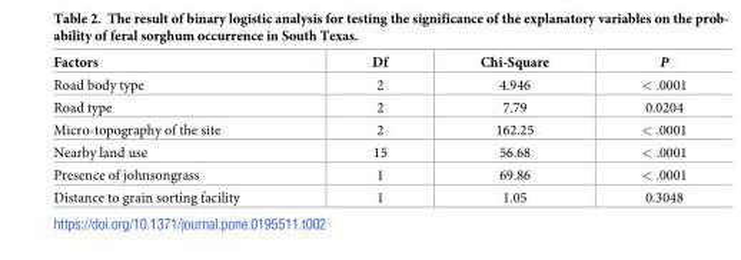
<table><thead><tr><td>Factors</td><td>Df</td><td>Chi-Square</td><td>P</td></tr></thead><tbody><tr><td>Road body type</td><td>2</td><td>4.946</td><td>&lt; .0001</td></tr><tr><td>Road type</td><td>2</td><td>7.79</td><td>0.0204</td></tr><tr><td>Micro-topography of the site</td><td>2</td><td>162.25</td><td>&lt; .0001</td></tr><tr><td>Nearby land use</td><td>15</td><td>56.68</td><td>&lt; .0001</td></tr><tr><td>Presence of johnsongrass</td><td>1</td><td>69.86</td><td>&lt; .0001</td></tr><tr><td>Distance to grain sorting facility</td><td>1</td><td>1.05</td><td>0.3048</td></tr></tbody></table>